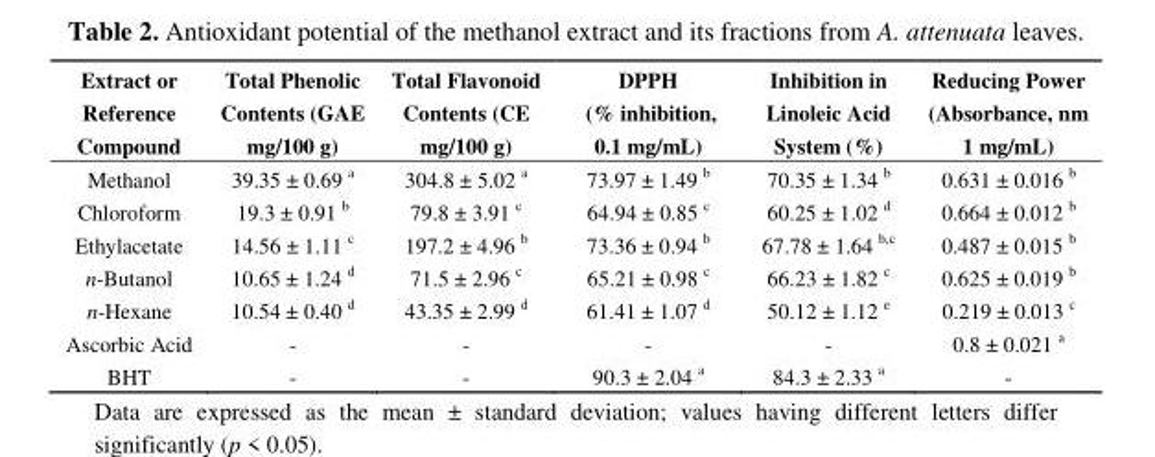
<table><thead><tr><td>Extract or Reference Compound</td><td>Total Phenolic Contents (GAE mg/100 g)</td><td>Total Flavonoid Contents (CE mg/100 g)</td><td>DPPH (% inhibition, 0.1 mg/mL)</td><td>Inhibition in Linoleic Acid System (%)</td><td>Reducing Power (Absorbance, nm 1 mg/mL)</td></tr></thead><tbody><tr><td>Methanol</td><td>39.35 ± 0.69 <sup>a</sup></td><td>304.8 ± 5.02 <sup>a</sup></td><td>73.97 ± 1.49 <sup>b</sup></td><td>70.35 ± 1.34 <sup>b</sup></td><td>0.631 ± 0.016 <sup>b</sup></td></tr><tr><td>Chloroform</td><td>19.3 ± 0.91 <sup>b</sup></td><td>79.8 ± 3.91 <sup>c</sup></td><td>64.94 ± 0.85 <sup>c</sup></td><td>60.25 ± 1.02 <sup>d</sup></td><td>0.664 ± 0.012 <sup>b</sup></td></tr><tr><td>Ethylacetate</td><td>14.56 ± 1.11 <sup>c</sup></td><td>197.2 ± 4.96 <sup>b</sup></td><td>73.36 ± 0.94 <sup>b</sup></td><td>67.78 ± 1.64 <sup>b,c</sup></td><td>0.487 ± 0.015 <sup>b</sup></td></tr><tr><td>n-Butanol</td><td>10.65 ± 1.24 <sup>d</sup></td><td>71.5 ± 2.96 <sup>c</sup></td><td>65.21 ± 0.98 <sup>c</sup></td><td>66.23 ± 1.82 <sup>c</sup></td><td>0.625 ± 0.019 <sup>b</sup></td></tr><tr><td>n-Hexane</td><td>10.54 ± 0.40 <sup>d</sup></td><td>43.35 ± 2.99 <sup>d</sup></td><td>61.41 ± 1.07 <sup>d</sup></td><td>50.12 ± 1.12 <sup>e</sup></td><td>0.219 ± 0.013 <sup>c</sup></td></tr><tr><td>Ascorbic Acid</td><td>-</td><td>-</td><td>-</td><td>-</td><td>0.8 ± 0.021 <sup>a</sup></td></tr><tr><td>BHT</td><td>-</td><td>-</td><td>90.3 ± 2.04 <sup>a</sup></td><td>84.3 ± 2.33 <sup>a</sup></td><td>-</td></tr></tbody></table>